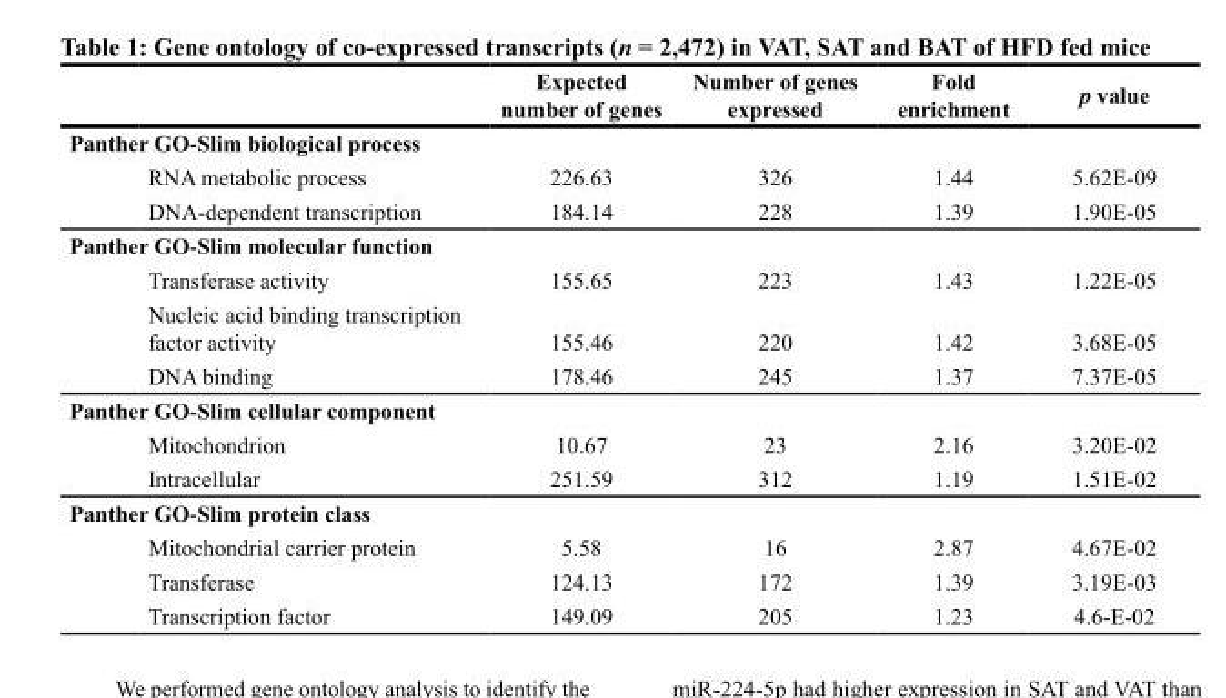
<table><thead><tr><td></td><td>Expected number of genes</td><td>Number of genes expressed</td><td>Fold enrichment</td><td>p value</td></tr></thead><tbody><tr><td colspan="5">Panther GO-Slim biological process</td></tr><tr><td>RNA metabolic process</td><td>226.63</td><td>326</td><td>1.44</td><td>5.62E-09</td></tr><tr><td>DNA-dependent transcription</td><td>184.14</td><td>228</td><td>1.39</td><td>1.90E-05</td></tr><tr><td colspan="5">Panther GO-Slim molecular function</td></tr><tr><td>Transferase activity</td><td>155.65</td><td>223</td><td>1.43</td><td>1.22E-05</td></tr><tr><td>Nucleic acid binding transcription factor activity</td><td>155.46</td><td>220</td><td>1.42</td><td>3.68E-05</td></tr><tr><td>DNA binding</td><td>178.46</td><td>245</td><td>1.37</td><td>7.37E-05</td></tr><tr><td colspan="5">Panther GO-Slim cellular component</td></tr><tr><td>Mitochondrion</td><td>10.67</td><td>23</td><td>2.16</td><td>3.20E-02</td></tr><tr><td>Intracellular</td><td>251.59</td><td>312</td><td>1.19</td><td>1.51E-02</td></tr><tr><td colspan="5">Panther GO-Slim protein class</td></tr><tr><td>Mitochondrial carrier protein</td><td>5.58</td><td>16</td><td>2.87</td><td>4.67E-02</td></tr><tr><td>Transferase</td><td>124.13</td><td>172</td><td>1.39</td><td>3.19E-03</td></tr><tr><td>Transcription factor</td><td>149.09</td><td>205</td><td>1.23</td><td>4.6-E-02</td></tr></tbody></table>